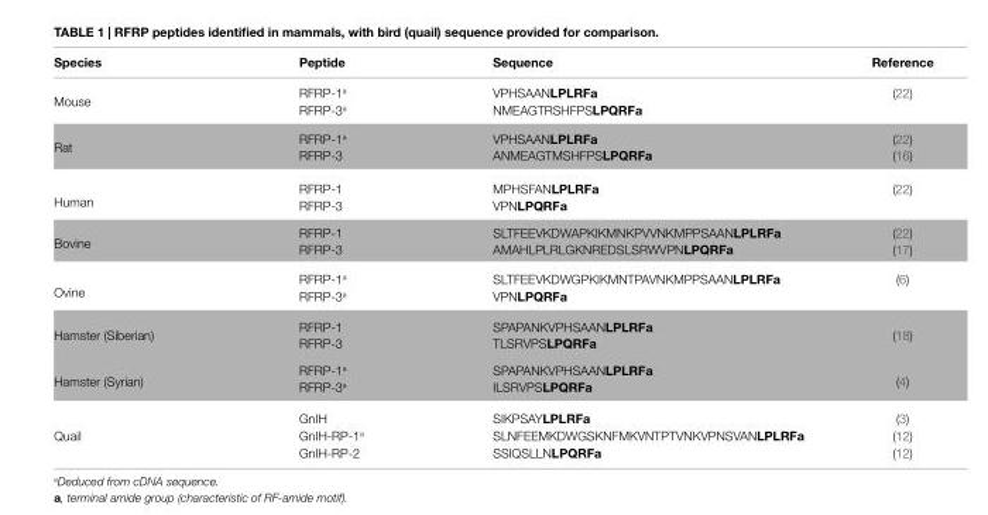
<table><thead><tr><td>Species</td><td>Peptide</td><td>Sequence</td><td>Reference</td></tr></thead><tbody><tr><td rowspan="2">Mouse</td><td>RFRP-1<sup>a</sup></td><td>VPHSAANLPLRFa</td><td>(22)</td></tr><tr><td>RFRP-3<sup>a</sup></td><td>NMEAGTRSHFPSLPQRFa</td><td></td></tr><tr><td rowspan="2">Rat</td><td>RFRP-1<sup>a</sup></td><td>VPHSAANLPLRFa</td><td>(22)</td></tr><tr><td>RFRP-3</td><td>ANMEAGTMSHFPSLPQRFa</td><td>(16)</td></tr><tr><td rowspan="2">Human</td><td>RFRP-1</td><td>MPHSFANLPLRFa</td><td rowspan="2">(22)</td></tr><tr><td>RFRP-3</td><td>VPNLPQRFa</td></tr><tr><td rowspan="2">Bovine</td><td>RFRP-1</td><td>SLTFEEVKDWAPKIKMNKPVVNKMPPSAANLPLRFa</td><td>(22)</td></tr><tr><td>RFRP-3</td><td>AMAHLPLRLGKNREDSLSRWVPNLPQRFa</td><td>(17)</td></tr><tr><td rowspan="2">Ovine</td><td>RFRP-1<sup>a</sup></td><td>SLTFEEVKDWGPKIKMNTPAVNKMPPSAANLPLRFa</td><td rowspan="2">(6)</td></tr><tr><td>RFRP-3<sup>a</sup></td><td>VPNLPQRFa</td></tr><tr><td rowspan="2">Hamster (Siberian)</td><td>RFRP-1</td><td>SPAPANKVPHSAANLPLRFa</td><td rowspan="2">(18)</td></tr><tr><td>RFRP-3</td><td>TLSRVPSLPQRFa</td></tr><tr><td rowspan="2">Hamster (Syrian)</td><td>RFRP-1<sup>a</sup></td><td>SPAPANKVPHSAANLPLRFa</td><td rowspan="2">(4)</td></tr><tr><td>RFRP-3<sup>a</sup></td><td>ILSRVPSLPQRFa</td></tr><tr><td rowspan="3">Quail</td><td>GnIH</td><td>SIKPSAYLPLRFa</td><td>(3)</td></tr><tr><td>GnIH-RP-1<sup>a</sup></td><td>SLNFEEMKDWGSKNFMKVNTPTVNKVPNSVANLPLRFa</td><td>(12)</td></tr><tr><td>GnIH-RP-2</td><td>SSIQSLLNLPQRFa</td><td>(12)</td></tr></tbody></table>